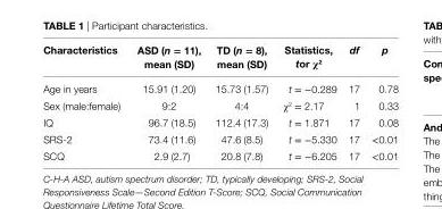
<table><thead><tr><td>characteristics</td><td>asD (n = 11), mean (sD)</td><td>TD (n = 8), mean (sD)</td><td>statistics, tor χ<sup>2</sup></td><td>df</td><td>p</td></tr></thead><tbody><tr><td>Age in years</td><td>15.91 (1.20)</td><td>15.73 (1.57)</td><td>t = −0.289</td><td>17</td><td>0.78</td></tr><tr><td>Sex (male:female)</td><td>9:2</td><td>4:4</td><td>χ<sup>2</sup> = 2.17</td><td>1</td><td>0.33</td></tr><tr><td>IQ</td><td>96.7 (18.5)</td><td>112.4 (17.3)</td><td>t = 1.871</td><td>17</td><td>0.08</td></tr><tr><td>SRS-2</td><td>73.4 (11.6)</td><td>47.6 (8.5)</td><td>t = −5.330</td><td>17</td><td>&lt;0.01</td></tr><tr><td>SCQ</td><td>2.9 (2.7)</td><td>20.8 (7.8)</td><td>t = −6.205</td><td>17</td><td>&lt;0.01</td></tr></tbody></table>